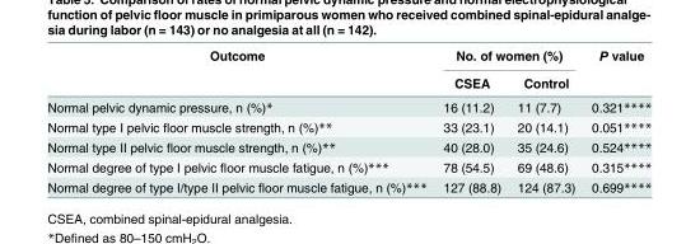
<table><thead><tr><td rowspan="2">Outcome</td><td colspan="2">No. of women (%)</td><td rowspan="2">P value</td></tr><tr><td>CSEA</td><td>Control</td></tr></thead><tbody><tr><td>Normal pelvic dynamic pressure, n (%)*</td><td>16 (11.2)</td><td>11 (7.7)</td><td>0.321****</td></tr><tr><td>Normal type I pelvic floor muscle strength, n (%)**</td><td>33 (23.1)</td><td>20 (14.1)</td><td>0.051****</td></tr><tr><td>Normal type II pelvic floor muscle strength, n (%)**</td><td>40 (28.0)</td><td>35 (24.6)</td><td>0.524****</td></tr><tr><td>Normal degree of type I pelvic floor muscle fatigue, n (%)***</td><td>78 (54.5)</td><td>69 (48.6)</td><td>0.315****</td></tr><tr><td>Normal degree of type I/type II pelvic floor muscle fatigue, n (%)***</td><td>127 (88.8)</td><td>124 (87.3)</td><td>0.699****</td></tr></tbody></table>